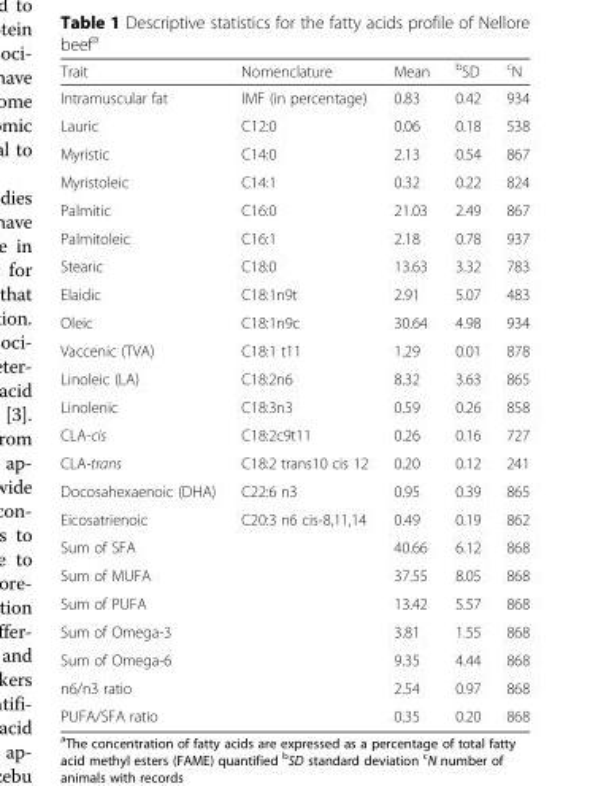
<table><thead><tr><td>Trait</td><td>Nomenclature</td><td>Mean</td><td><sup>b</sup>SD</td><td><sup>c</sup>N</td></tr></thead><tbody><tr><td>Intramuscular fat</td><td>IMF (in percentage)</td><td>0.83</td><td>0.42</td><td>934</td></tr><tr><td>Lauric</td><td>C12:0</td><td>0.06</td><td>0.18</td><td>538</td></tr><tr><td>Myristic</td><td>C14:0</td><td>2.13</td><td>0.54</td><td>867</td></tr><tr><td>Myristoleic</td><td>C14:1</td><td>0.32</td><td>0.22</td><td>824</td></tr><tr><td>Palmitic</td><td>C16:0</td><td>21.03</td><td>2.49</td><td>867</td></tr><tr><td>Palmitoleic</td><td>C16:1</td><td>2.18</td><td>0.78</td><td>937</td></tr><tr><td>Stearic</td><td>C18:0</td><td>13.63</td><td>3.32</td><td>783</td></tr><tr><td>Elaidic</td><td>C18:1n9t</td><td>2.91</td><td>5.07</td><td>483</td></tr><tr><td>Oleic</td><td>C18:1n9c</td><td>30.64</td><td>4.98</td><td>934</td></tr><tr><td>Vaccenic (TVA)</td><td>C18:1 t11</td><td>1.29</td><td>0.01</td><td>878</td></tr><tr><td>Linoleic (LA)</td><td>C18:2n6</td><td>8.32</td><td>3.63</td><td>865</td></tr><tr><td>Linolenic</td><td>C18:3n3</td><td>0.59</td><td>0.26</td><td>858</td></tr><tr><td>CLA-cis</td><td>C18:2c9t11</td><td>0.26</td><td>0.16</td><td>727</td></tr><tr><td>CLA-trans</td><td>C18:2 trans10 cis 12</td><td>0.20</td><td>0.12</td><td>241</td></tr><tr><td>Docosahexaenoic (DHA)</td><td>C22:6 n3</td><td>0.95</td><td>0.39</td><td>865</td></tr><tr><td>Eicosatrienoic</td><td>C20:3 n6 cis-8,11,14</td><td>0.49</td><td>0.19</td><td>862</td></tr><tr><td>Sum of SFA</td><td></td><td>40.66</td><td>6.12</td><td>868</td></tr><tr><td>Sum of MUFA</td><td></td><td>37.55</td><td>8.05</td><td>868</td></tr><tr><td>Sum of PUFA</td><td></td><td>13.42</td><td>5.57</td><td>868</td></tr><tr><td>Sum of Omega-3</td><td></td><td>3.81</td><td>1.55</td><td>868</td></tr><tr><td>Sum of Omega-6</td><td></td><td>9.35</td><td>4.44</td><td>868</td></tr><tr><td>n6/n3 ratio</td><td></td><td>2.54</td><td>0.97</td><td>868</td></tr><tr><td>PUFA/SFA ratio</td><td></td><td>0.35</td><td>0.20</td><td>868</td></tr></tbody></table>